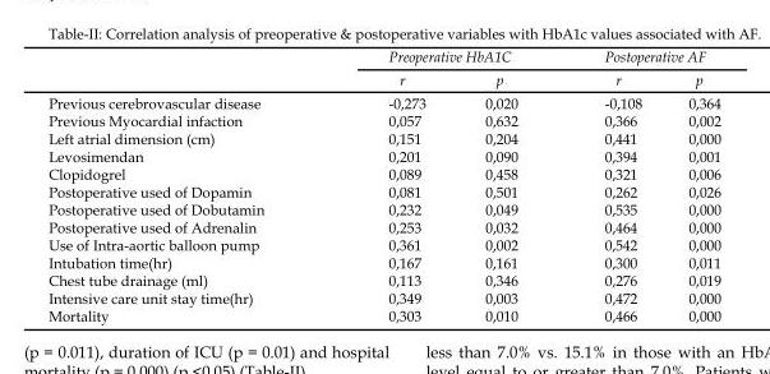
<table><thead><tr><td rowspan="2"></td><td colspan="2">Preoperative HbA1C</td><td colspan="2">Postoperative AF</td></tr><tr><td>r</td><td>p</td><td>r</td><td>p</td></tr></thead><tbody><tr><td>Previous cerebrovascular disease</td><td>-0,273</td><td>0,020</td><td>-0,108</td><td>0,364</td></tr><tr><td>Previous Myocardial infaction</td><td>0,057</td><td>0,632</td><td>0,366</td><td>0,002</td></tr><tr><td>Left atrial dimension (cm)</td><td>0,151</td><td>0,204</td><td>0,441</td><td>0,000</td></tr><tr><td>Levosimendan</td><td>0,201</td><td>0,090</td><td>0,394</td><td>0,001</td></tr><tr><td>Clopidogrel</td><td>0,089</td><td>0,458</td><td>0,321</td><td>0,006</td></tr><tr><td>Postoperative used of Dopamin</td><td>0,081</td><td>0,501</td><td>0,262</td><td>0,026</td></tr><tr><td>Postoperative used of Dobutamin</td><td>0,232</td><td>0,049</td><td>0,535</td><td>0,000</td></tr><tr><td>Postoperative used of Adrenalin</td><td>0,253</td><td>0,032</td><td>0,464</td><td>0,000</td></tr><tr><td>Use of Intra-aortic balloon pump</td><td>0,361</td><td>0,002</td><td>0,542</td><td>0,000</td></tr><tr><td>Intubation time(hr)</td><td>0,167</td><td>0,161</td><td>0,300</td><td>0,011</td></tr><tr><td>Chest tube drainage (ml)</td><td>0,113</td><td>0,346</td><td>0,276</td><td>0,019</td></tr><tr><td>Intensive care unit stay time(hr)</td><td>0,349</td><td>0,003</td><td>0,472</td><td>0,000</td></tr><tr><td>Mortality</td><td>0,303</td><td>0,010</td><td>0,466</td><td>0,000</td></tr></tbody></table>